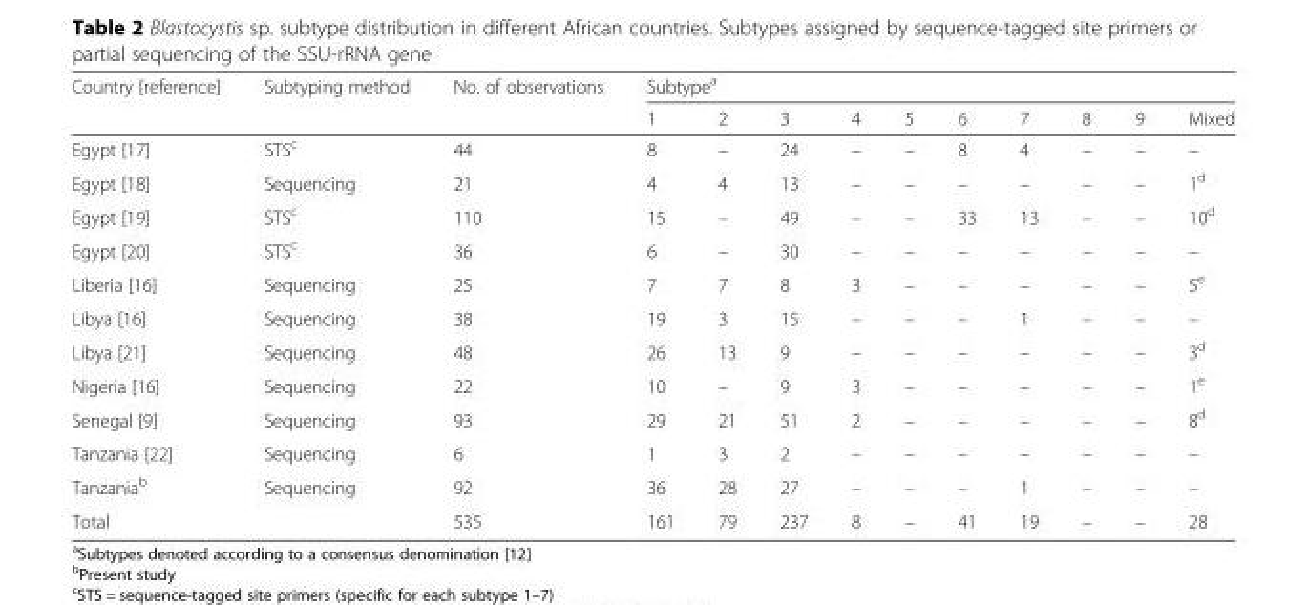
<table><thead><tr><td rowspan="2">Country [reference]</td><td rowspan="2">Subtyping method</td><td rowspan="2">No. of observations</td><td colspan="10">Subtype<sup>a</sup></td></tr><tr><td>1</td><td>2</td><td>3</td><td>4</td><td>5</td><td>6</td><td>7</td><td>8</td><td>9</td><td>Mixed</td></tr></thead><tbody><tr><td>Egypt [17]</td><td>STS<sup>c</sup></td><td>44</td><td>8</td><td>–</td><td>24</td><td>–</td><td>–</td><td>8</td><td>4</td><td>–</td><td>–</td><td>–</td></tr><tr><td>Egypt [18]</td><td>Sequencing</td><td>21</td><td>4</td><td>4</td><td>13</td><td>–</td><td>–</td><td>–</td><td>–</td><td>–</td><td>–</td><td>1<sup>d</sup></td></tr><tr><td>Egypt [19]</td><td>STS<sup>c</sup></td><td>110</td><td>15</td><td>–</td><td>49</td><td>–</td><td>–</td><td>33</td><td>13</td><td>–</td><td>–</td><td>10<sup>d</sup></td></tr><tr><td>Egypt [20]</td><td>STS<sup>c</sup></td><td>36</td><td>6</td><td>–</td><td>30</td><td>–</td><td>–</td><td>–</td><td>–</td><td>–</td><td>–</td><td>–</td></tr><tr><td>Liberia [16]</td><td>Sequencing</td><td>25</td><td>7</td><td>7</td><td>8</td><td>3</td><td>–</td><td>–</td><td>–</td><td>–</td><td>–</td><td>5<sup>e</sup></td></tr><tr><td>Libya [16]</td><td>Sequencing</td><td>38</td><td>19</td><td>3</td><td>15</td><td>–</td><td>–</td><td>–</td><td>1</td><td>–</td><td>–</td><td>–</td></tr><tr><td>Libya [21]</td><td>Sequencing</td><td>48</td><td>26</td><td>13</td><td>9</td><td>–</td><td>–</td><td>–</td><td>–</td><td>–</td><td>–</td><td>3<sup>d</sup></td></tr><tr><td>Nigeria [16]</td><td>Sequencing</td><td>22</td><td>10</td><td>–</td><td>9</td><td>3</td><td>–</td><td>–</td><td>–</td><td>–</td><td>–</td><td>1<sup>e</sup></td></tr><tr><td>Senegal [9]</td><td>Sequencing</td><td>93</td><td>29</td><td>21</td><td>51</td><td>2</td><td>–</td><td>–</td><td>–</td><td>–</td><td>–</td><td>8<sup>d</sup></td></tr><tr><td>Tanzania [22]</td><td>Sequencing</td><td>6</td><td>1</td><td>3</td><td>2</td><td>–</td><td>–</td><td>–</td><td>–</td><td>–</td><td>–</td><td>–</td></tr><tr><td>Tanzania<sup>b</sup></td><td>Sequencing</td><td>92</td><td>36</td><td>28</td><td>27</td><td>–</td><td>–</td><td>–</td><td>1</td><td>–</td><td>–</td><td>–</td></tr><tr><td>Total</td><td></td><td>535</td><td>161</td><td>79</td><td>237</td><td>8</td><td>–</td><td>41</td><td>19</td><td>–</td><td>–</td><td>28</td></tr></tbody></table>